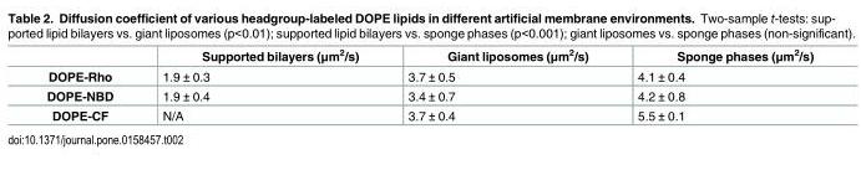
<table><thead><tr><td></td><td>Supported bilayers (μm<sup>2</sup>/s)</td><td>Giant liposomes (μm<sup>2</sup>/s)</td><td>Sponge phases (μm<sup>2</sup>/s)</td></tr></thead><tbody><tr><td>DOPE-Rho</td><td>1.9 ± 0.3</td><td>3.7 ± 0.5</td><td>4.1 ± 0.4</td></tr><tr><td>DOPE-NBD</td><td>1.9 ± 0.4</td><td>3.4 ± 0.7</td><td>4.2 ± 0.8</td></tr><tr><td>DOPE-CF</td><td>N/A</td><td>3.7 ± 0.4</td><td>5.5 ± 0.1</td></tr></tbody></table>